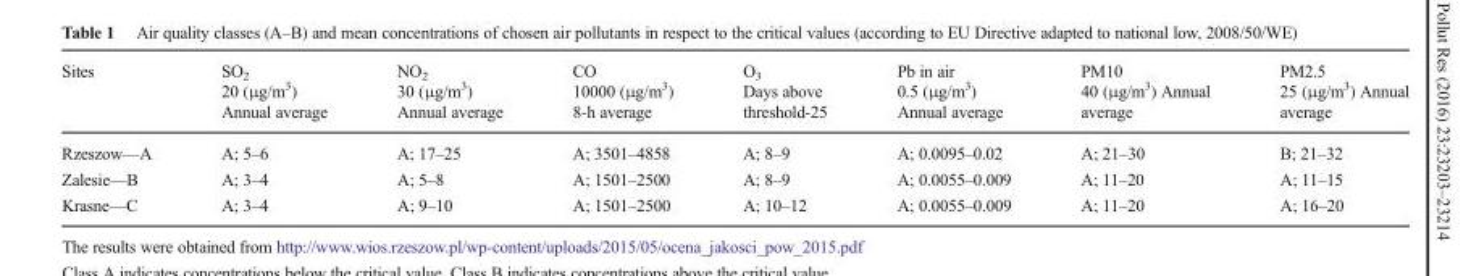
<table><thead><tr><td>Sites</td><td>SO<sub>2</sub> 20 (μg/m<sup>3</sup>) Annual average</td><td>NO<sub>2</sub> 30 (μg/m<sup>3</sup>) Annual average</td><td>CO 10000 (μg/m<sup>3</sup>) 8-h average</td><td>O<sub>3</sub> Days above threshold-25</td><td>Pb in air 0.5 (μg/m<sup>3</sup>) Annual average</td><td>PM10 40 (μg/m<sup>3</sup>) Annual average</td><td>PM2.5 25 (μg/m<sup>3</sup>) Annual average</td></tr></thead><tbody><tr><td>Rzeszow—A</td><td>A; 5–6</td><td>A; 17–25</td><td>A; 3501–4858</td><td>A; 8–9</td><td>A; 0.0095–0.02</td><td>A; 21–30</td><td>B; 21–32</td></tr><tr><td>Zalesie—B</td><td>A; 3–4</td><td>A; 5–8</td><td>A; 1501–2500</td><td>A; 8–9</td><td>A; 0.0055–0.009</td><td>A; 11–20</td><td>A; 11–15</td></tr><tr><td>Krasne—C</td><td>A; 3–4</td><td>A; 9–10</td><td>A; 1501–2500</td><td>A; 10–12</td><td>A; 0.0055–0.009</td><td>A; 11–20</td><td>A; 16–20</td></tr></tbody></table>